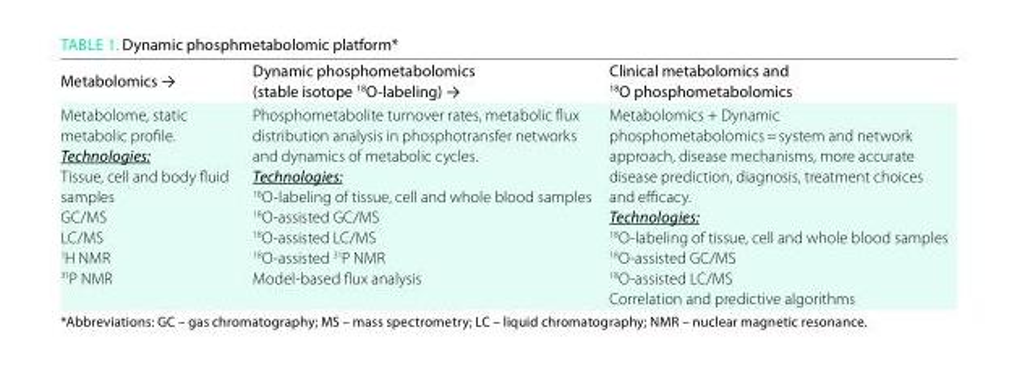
<table><thead><tr><td>Metabolomics →</td><td>Dynamic phosphometabolomics (stable isotope <sup>18</sup>O-labeling) →</td><td>clinical metabolomics and <sup>18</sup>O phosphometabolomics</td></tr></thead><tbody><tr><td>Metabolome, static metabolic profile. Technologies: Tissue, cell and body fluid samples GC/MS LC/MS <sup>1</sup>H NMR <sup>31</sup>P NMR</td><td>Phosphometabolite turnover rates, metabolic flux distribution analysis in phosphotransfer networks and dynamics of metabolic cycles. Technologies: <sup>18</sup>O-labeling of tissue, cell and whole blood samples <sup>18</sup>O-assisted GC/MS <sup>18</sup>O-assisted LC/MS <sup>18</sup>O-assisted <sup>31</sup>P NMR Model-based flux analysis</td><td>Metabolomics + Dynamic phosphometabolomics = system and network approach, disease mechanisms, more accurate disease prediction, diagnosis, treatment choices and efficacy. Technologies: <sup>18</sup>O-labeling of tissue, cell and whole blood samples <sup>18</sup>O-assisted GC/MS <sup>18</sup>O-assisted LC/MS Correlation and predictive algorithms</td></tr></tbody></table>